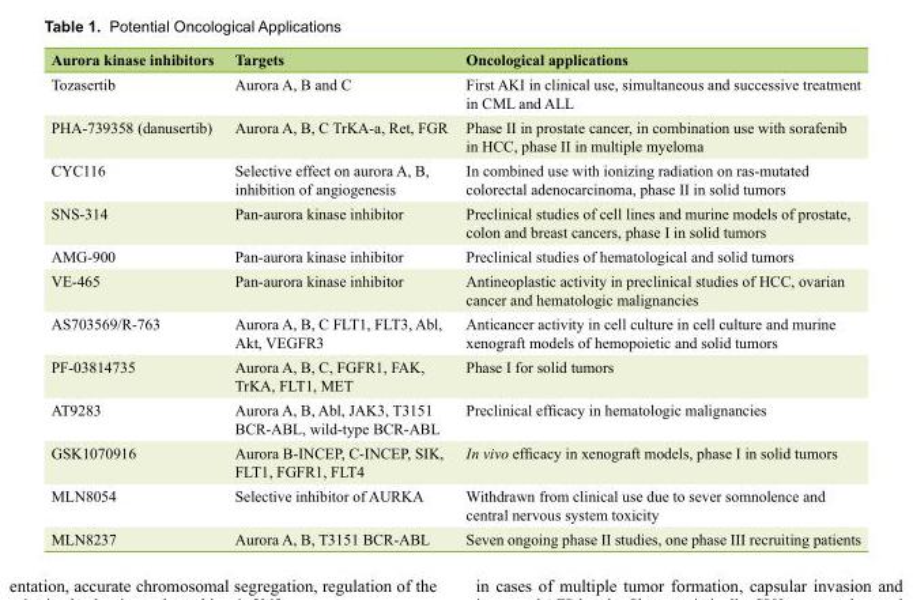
<table><thead><tr><td>Aurora kinase inhibitors</td><td>Targets</td><td>Oncological applications</td></tr></thead><tbody><tr><td>Tozasertib</td><td>Aurora A, B and C</td><td>First AKI in clinical use, simultaneous and successive treatment in CML and ALL</td></tr><tr><td>PHA-739358 (danusertib)</td><td>Aurora A, B, C TrKA-a, Ret, FGR</td><td>Phase II in prostate cancer, in combination use with sorafenib in HCC, phase II in multiple myeloma</td></tr><tr><td>CYC116</td><td>Selective effect on aurora A, B, inhibition of angiogenesis</td><td>In combined use with ionizing radiation on ras-mutated colorectal adenocarcinoma, phase II in solid tumors</td></tr><tr><td>SNS-314</td><td>Pan-aurora kinase inhibitor</td><td>Preclinical studies of cell lines and murine models of prostate, colon and breast cancers, phase I in solid tumors</td></tr><tr><td>AMG-900</td><td>Pan-aurora kinase inhibitor</td><td>Preclinical studies of hematological and solid tumors</td></tr><tr><td>VE-465</td><td>Pan-aurora kinase inhibitor</td><td>Antineoplastic activity in preclinical studies of HCC, ovarian cancer and hematologic malignancies</td></tr><tr><td>AS703569/R-763</td><td>Aurora A, B, C FLT1, FLT3, Abl, Akt, VEGFR3</td><td>Anticancer activity in cell culture in cell culture and murine xenograft models of hemopoietic and solid tumors</td></tr><tr><td>PF-03814735</td><td>Aurora A, B, C, FGFR1, FAK, TrKA, FLT1, MET</td><td>Phase I for solid tumors</td></tr><tr><td>AT9283</td><td>Aurora A, B, Abl, JAK3, T3151 BCR-ABL, wild-type BCR-ABL</td><td>Preclinical efficacy in hematologic malignancies</td></tr><tr><td>GSK1070916</td><td>Aurora B-INCEP, C-INCEP, SIK, FLT1, FGFR1, FLT4</td><td>In vivo efficacy in xenograft models, phase I in solid tumors</td></tr><tr><td>MLN8054</td><td>Selective inhibitor of AURKA</td><td>Withdrawn from clinical use due to sever somnolence and central nervous system toxicity</td></tr><tr><td>MLN8237</td><td>Aurora A, B, T3151 BCR-ABL</td><td>Seven ongoing phase II studies, one phase III recruiting patients</td></tr></tbody></table>